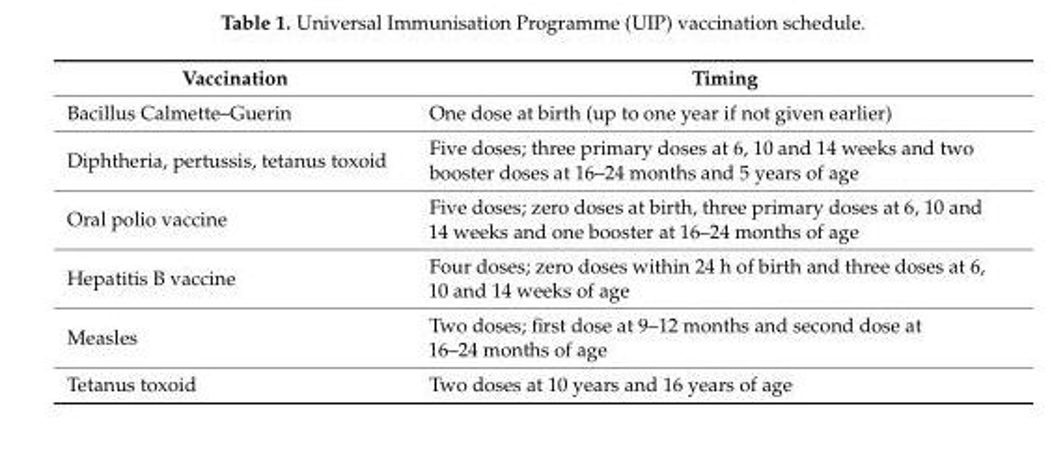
<table><thead><tr><td>Vaccination</td><td>Timing</td></tr></thead><tbody><tr><td>Bacillus Calmette–Guerin</td><td>One dose at birth (up to one year if not given earlier)</td></tr><tr><td>Diphtheria, pertussis, tetanus toxoid</td><td>Five doses; three primary doses at 6, 10 and 14 weeks and two booster doses at 16–24 months and 5 years of age</td></tr><tr><td>Oral polio vaccine</td><td>Five doses; zero doses at birth, three primary doses at 6, 10 and 14 weeks and one booster at 16–24 months of age</td></tr><tr><td>Hepatitis B vaccine</td><td>Four doses; zero doses within 24 h of birth and three doses at 6, 10 and 14 weeks of age</td></tr><tr><td>Measles</td><td>Two doses; first dose at 9–12 months and second dose at 16–24 months of age</td></tr><tr><td>Tetanus toxoid</td><td>Two doses at 10 years and 16 years of age</td></tr></tbody></table>